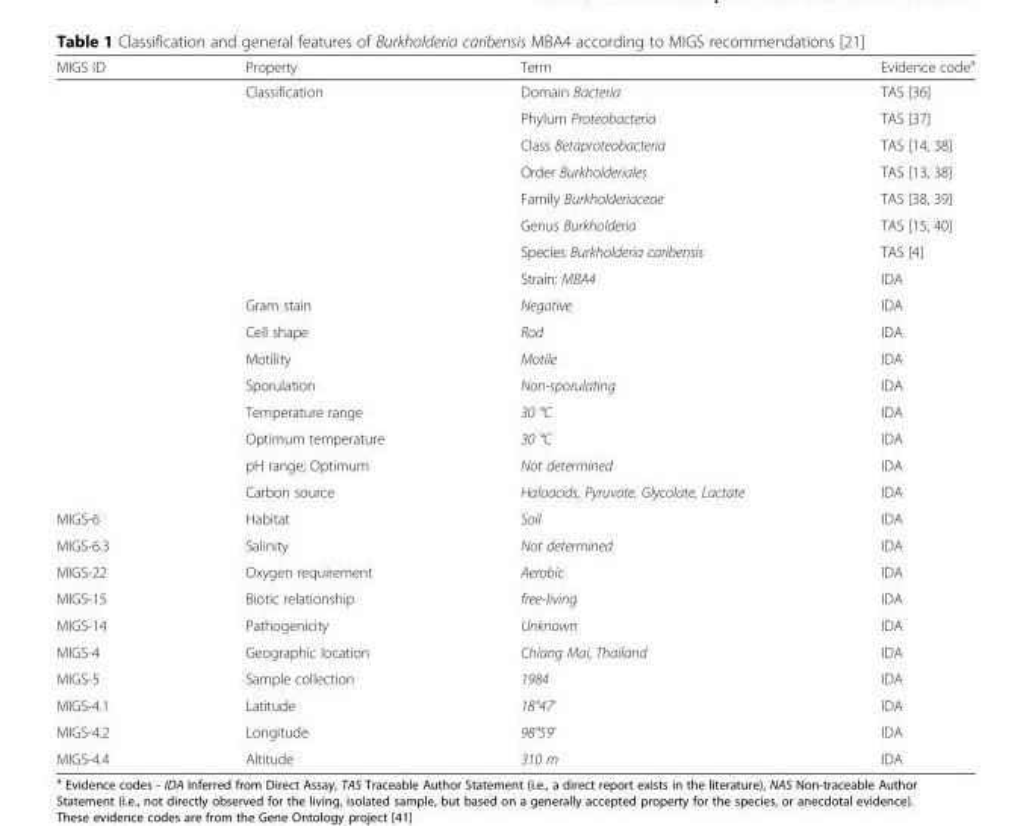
<table><thead><tr><td>MIGS ID</td><td>Property</td><td>Term</td><td>Evidence code<sup>a</sup></td></tr></thead><tbody><tr><td></td><td>Classification</td><td>Domain Bacteria</td><td>TAS [36]</td></tr><tr><td></td><td></td><td>Phylum Proteobacteria</td><td>TAS [37]</td></tr><tr><td></td><td></td><td>Class Betaproteobacteria</td><td>TAS [14, 38]</td></tr><tr><td></td><td></td><td>Order Burkholderiales</td><td>TAS [13, 38]</td></tr><tr><td></td><td></td><td>Family Burkholderiaceae</td><td>TAS [38, 39]</td></tr><tr><td></td><td></td><td>Genus Burkholderia</td><td>TAS [15, 40]</td></tr><tr><td></td><td></td><td>Species Burkholderia caribensis</td><td>TAS [4]</td></tr><tr><td></td><td></td><td>Strain: MBA4</td><td>IDA</td></tr><tr><td></td><td>Gram stain</td><td>Negative</td><td>IDA</td></tr><tr><td></td><td>Cell shape</td><td>Rod</td><td>IDA</td></tr><tr><td></td><td>Motility</td><td>Motile</td><td>IDA</td></tr><tr><td></td><td>Sporulation</td><td>Non-sporulating</td><td>IDA</td></tr><tr><td></td><td>Temperature range</td><td>30 °C</td><td>IDA</td></tr><tr><td></td><td>Optimum temperature</td><td>30 °C</td><td>IDA</td></tr><tr><td></td><td>pH range; Optimum</td><td>Not determined</td><td>IDA</td></tr><tr><td></td><td>Carbon source</td><td>Haloacids, Pyruvate, Glycolate, Lactate</td><td>IDA</td></tr><tr><td>MIGS-6</td><td>Habitat</td><td>Soil</td><td>IDA</td></tr><tr><td>MIGS-6.3</td><td>Salinity</td><td>Not determined</td><td>IDA</td></tr><tr><td>MIGS-22</td><td>Oxygen requirement</td><td>Aerobic</td><td>IDA</td></tr><tr><td>MIGS-15</td><td>Biotic relationship</td><td>free-living</td><td>IDA</td></tr><tr><td>MIGS-14</td><td>Pathogenicity</td><td>Unknown</td><td>IDA</td></tr><tr><td>MIGS-4</td><td>Geographic location</td><td>Chiang Mai, Thailand</td><td>IDA</td></tr><tr><td>MIGS-5</td><td>Sample collection</td><td>1984</td><td>IDA</td></tr><tr><td>MIGS-4.1</td><td>Latitude</td><td>18°47&#x27;</td><td>IDA</td></tr><tr><td>MIGS-4.2</td><td>Longitude</td><td>98°59&#x27;</td><td>IDA</td></tr><tr><td>MIGS-4.4</td><td>Altitude</td><td>310 m</td><td>IDA</td></tr></tbody></table>